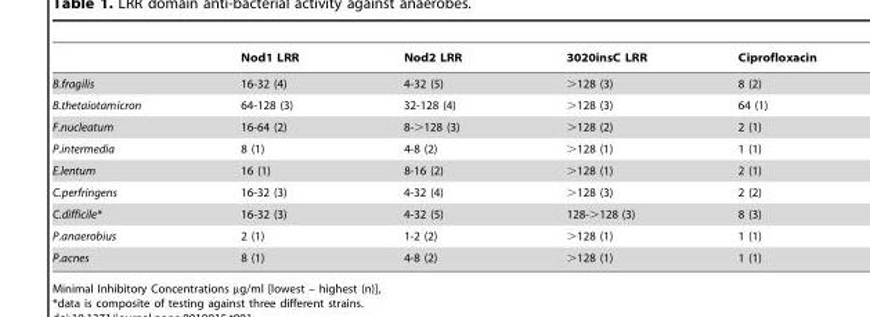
<table><thead><tr><td></td><td>Nod1 LRR</td><td>Nod2 LRR</td><td>3020insC LRR</td><td>Ciprofloxacin</td></tr></thead><tbody><tr><td>B.fragilis</td><td>16-32 (4)</td><td>4-32 (5)</td><td>&gt;128 (3)</td><td>8 (2)</td></tr><tr><td>B.thetaiotamicron</td><td>64-128 (3)</td><td>32-128 (4)</td><td>&gt;128 (3)</td><td>64 (1)</td></tr><tr><td>F.nucleatum</td><td>16-64 (2)</td><td>8-&gt;128 (3)</td><td>&gt;128 (2)</td><td>2 (1)</td></tr><tr><td>P.intermedia</td><td>8 (1)</td><td>4-8 (2)</td><td>&gt;128 (1)</td><td>1 (1)</td></tr><tr><td>E.lentum</td><td>16 (1)</td><td>8-16 (2)</td><td>&gt;128 (1)</td><td>2 (1)</td></tr><tr><td>C.perfringens</td><td>16-32 (3)</td><td>4-32 (4)</td><td>&gt;128 (3)</td><td>2 (2)</td></tr><tr><td>C.difficile*</td><td>16-32 (3)</td><td>4-32 (5)</td><td>128-&gt;128 (3)</td><td>8 (3)</td></tr><tr><td>P.anaerobius</td><td>2 (1)</td><td>1-2 (2)</td><td>&gt;128 (1)</td><td>1 (1)</td></tr><tr><td>P.acnes</td><td>8 (1)</td><td>4-8 (2)</td><td>&gt;128 (1)</td><td>1 (1)</td></tr></tbody></table>